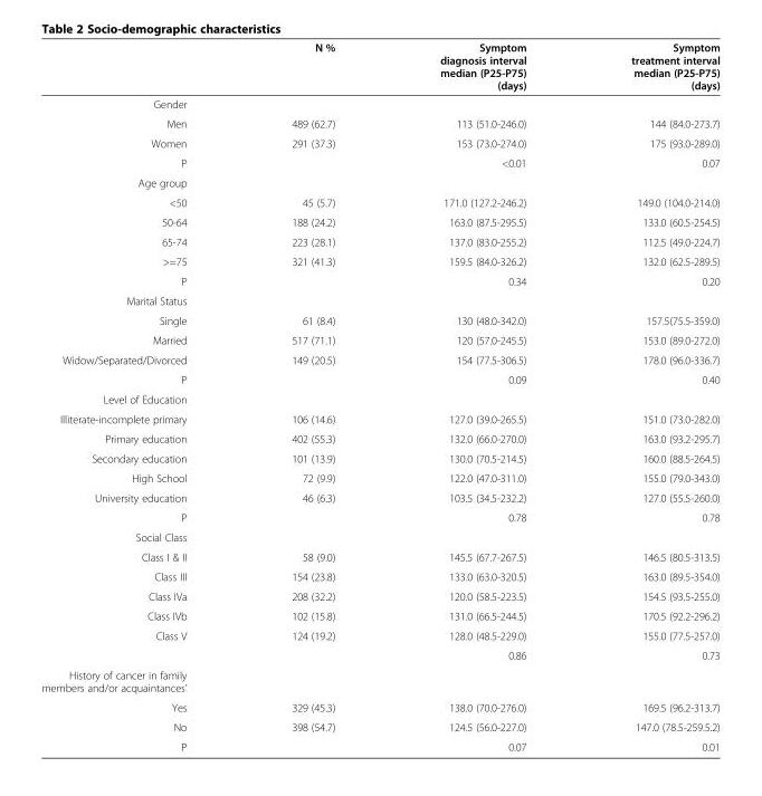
<table><thead><tr><td></td><td>N %</td><td>Symptom diagnosis interval median (P25-P75) (days)</td><td>Symptom treatment interval median (P25-P75) (days)</td></tr></thead><tbody><tr><td colspan="4">Gender</td></tr><tr><td>Men</td><td>489 (62.7)</td><td>113 (51.0-246.0)</td><td>144 (84.0-273.7)</td></tr><tr><td>Women</td><td>291 (37.3)</td><td>153 (73.0-274.0)</td><td>175 (93.0-289.0)</td></tr><tr><td>P</td><td></td><td>&lt;0.01</td><td>0.07</td></tr><tr><td colspan="4">Age group</td></tr><tr><td>&lt;50</td><td>45 (5.7)</td><td>171.0 (127.2-246.2)</td><td>149.0 (104.0-214.0)</td></tr><tr><td>50-64</td><td>188 (24.2)</td><td>163.0 (87.5-295.5)</td><td>133.0 (60.5-254.5)</td></tr><tr><td>65-74</td><td>223 (28.1)</td><td>137.0 (83.0-255.2)</td><td>112.5 (49.0-224.7)</td></tr><tr><td>&gt;=75</td><td>321 (41.3)</td><td>159.5 (84.0-326.2)</td><td>132.0 (62.5-289.5)</td></tr><tr><td>P</td><td></td><td>0.34</td><td>0.20</td></tr><tr><td colspan="4">Marital Status</td></tr><tr><td>Single</td><td>61 (8.4)</td><td>130 (48.0-342.0)</td><td>157.5(75.5-359.0)</td></tr><tr><td>Married</td><td>517 (71.1)</td><td>120 (57.0-245.5)</td><td>153.0 (89.0-272.0)</td></tr><tr><td>Widow/Separated/Divorced</td><td>149 (20.5)</td><td>154 (77.5-306.5)</td><td>178.0 (96.0-336.7)</td></tr><tr><td>P</td><td></td><td>0.09</td><td>0.40</td></tr><tr><td colspan="4">Level of Education</td></tr><tr><td>Illiterate-incomplete primary</td><td>106 (14.6)</td><td>127.0 (39.0-265.5)</td><td>151.0 (73.0-282.0)</td></tr><tr><td>Primary education</td><td>402 (55.3)</td><td>132.0 (66.0-270.0)</td><td>163.0 (93.2-295.7)</td></tr><tr><td>Secondary education</td><td>101 (13.9)</td><td>130.0 (70.5-214.5)</td><td>160.0 (88.5-264.5)</td></tr><tr><td>High School</td><td>72 (9.9)</td><td>122.0 (47.0-311.0)</td><td>155.0 (79.0-343.0)</td></tr><tr><td>University education</td><td>46 (6.3)</td><td>103.5 (34.5-232.2)</td><td>127.0 (55.5-260.0)</td></tr><tr><td>P</td><td></td><td>0.78</td><td>0.78</td></tr><tr><td colspan="4">Social Class</td></tr><tr><td>Class I &amp; II</td><td>58 (9.0)</td><td>145.5 (67.7-267.5)</td><td>146.5 (80.5-313.5)</td></tr><tr><td>Class III</td><td>154 (23.8)</td><td>133.0 (63.0-320.5)</td><td>163.0 (89.5-354.0)</td></tr><tr><td>Class IVa</td><td>208 (32.2)</td><td>120.0 (58.5-223.5)</td><td>154.5 (93.5-255.0)</td></tr><tr><td>Class IVb</td><td>102 (15.8)</td><td>131.0 (66.5-244.5)</td><td>170.5 (92.2-296.2)</td></tr><tr><td rowspan="2">Class V</td><td>124 (19.2)</td><td>128.0 (48.5-229.0)</td><td>155.0 (77.5-257.0)</td></tr><tr><td></td><td>0.86</td><td>0.73</td></tr><tr><td colspan="4">History of cancer in family members and/or acquaintances’</td></tr><tr><td>Yes</td><td>329 (45.3)</td><td>138.0 (70.0-276.0)</td><td>169.5 (96.2-313.7)</td></tr><tr><td>No</td><td>398 (54.7)</td><td>124.5 (56.0-227.0)</td><td>147.0 (78.5-259.5.2)</td></tr><tr><td>P</td><td></td><td>0.07</td><td>0.01</td></tr></tbody></table>